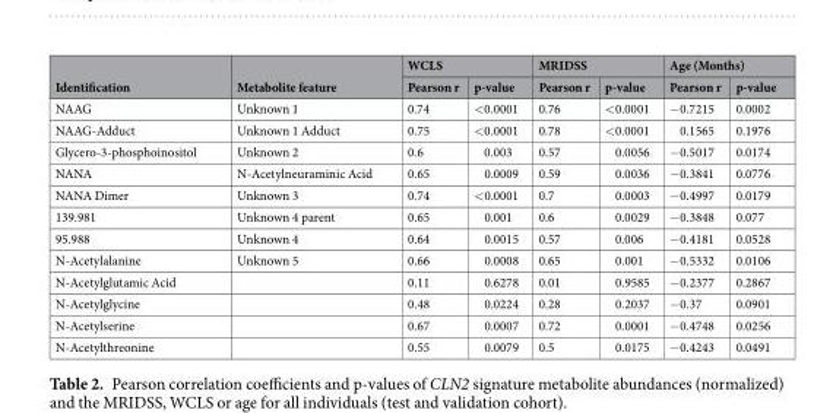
<table><thead><tr><td rowspan="2">Identification</td><td rowspan="2">Metabolite feature</td><td colspan="2">WCLS</td><td colspan="2">MRIDSS</td><td colspan="2">Age (Months)</td></tr><tr><td>Pearson r</td><td>p-value</td><td>Pearson r</td><td>p-value</td><td>Pearson r</td><td>p-value</td></tr></thead><tbody><tr><td>NAAG</td><td>Unknown 1</td><td>0.74</td><td>&lt;0.0001</td><td>0.76</td><td>&lt;0.0001</td><td>−0.7215</td><td>0.0002</td></tr><tr><td>NAAG-Adduct</td><td>Unknown 1 Adduct</td><td>0.75</td><td>&lt;0.0001</td><td>0.78</td><td>&lt;0.0001</td><td>0.1565</td><td>0.1976</td></tr><tr><td>Glycero-3-phosphoinositol</td><td>Unknown 2</td><td>0.6</td><td>0.003</td><td>0.57</td><td>0.0056</td><td>−0.5017</td><td>0.0174</td></tr><tr><td>NANA</td><td>N-Acetylneuraminic Acid</td><td>0.65</td><td>0.0009</td><td>0.59</td><td>0.0036</td><td>−0.3841</td><td>0.0776</td></tr><tr><td>NANA Dimer</td><td>Unknown 3</td><td>0.74</td><td>&lt;0.0001</td><td>0.7</td><td>0.0003</td><td>−0.4997</td><td>0.0179</td></tr><tr><td>139.981</td><td>Unknown 4 parent</td><td>0.65</td><td>0.001</td><td>0.6</td><td>0.0029</td><td>−0.3848</td><td>0.077</td></tr><tr><td>95.988</td><td>Unknown 4</td><td>0.64</td><td>0.0015</td><td>0.57</td><td>0.006</td><td>−0.4181</td><td>0.0528</td></tr><tr><td>N-Acetylalanine</td><td>Unknown 5</td><td>0.66</td><td>0.0008</td><td>0.65</td><td>0.001</td><td>−0.5332</td><td>0.0106</td></tr><tr><td>N-Acetylglutamic Acid</td><td></td><td>0.11</td><td>0.6278</td><td>0.01</td><td>0.9585</td><td>−0.2377</td><td>0.2867</td></tr><tr><td>N-Acetylglycine</td><td></td><td>0.48</td><td>0.0224</td><td>0.28</td><td>0.2037</td><td>−0.37</td><td>0.0901</td></tr><tr><td>N-Acetylserine</td><td></td><td>0.67</td><td>0.0007</td><td>0.72</td><td>0.0001</td><td>−0.4748</td><td>0.0256</td></tr><tr><td>N-Acetylthreonine</td><td></td><td>0.55</td><td>0.0079</td><td>0.5</td><td>0.0175</td><td>−0.4243</td><td>0.0491</td></tr></tbody></table>